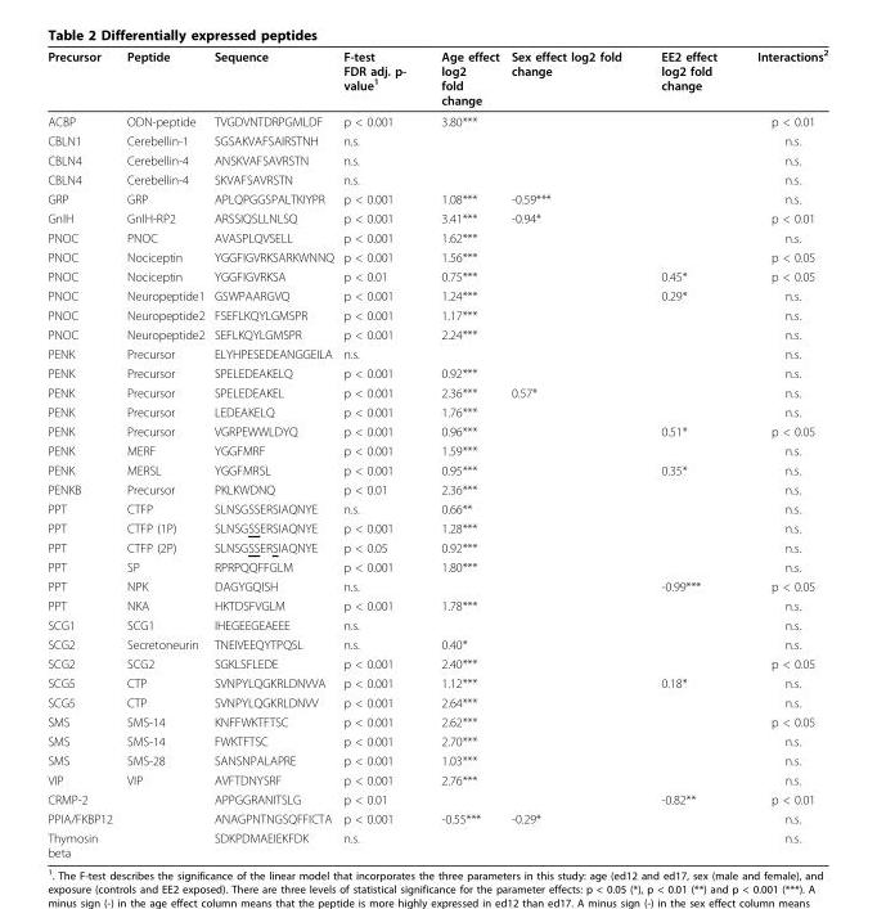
<table><thead><tr><td>Precursor</td><td>Peptide</td><td>Sequence</td><td>F-test FDR adj. p- value<sup>1</sup></td><td>Age effect log2 fold change</td><td>Sex effect log2 fold change</td><td>EE2 effect log2 fold change</td><td>Interactions<sup>2</sup></td></tr></thead><tbody><tr><td>ACBP</td><td>ODN-peptide</td><td>TVGDVNTDRPGMLDF</td><td>p &lt; 0.001</td><td>3.80***</td><td></td><td></td><td>p &lt; 0.01</td></tr><tr><td>CBLN1</td><td>Cerebellin-1</td><td>SGSAKVAFSAIRSTNH</td><td>n.s.</td><td></td><td></td><td></td><td>n.s.</td></tr><tr><td>CBLN4</td><td>Cerebellin-4</td><td>ANSKVAFSAVRSTN</td><td>n.s.</td><td></td><td></td><td></td><td>n.s.</td></tr><tr><td>CBLN4</td><td>Cerebellin-4</td><td>SKVAFSAVRSTN</td><td>n.s.</td><td></td><td></td><td></td><td>n.s.</td></tr><tr><td>GRP</td><td>GRP</td><td>APLQPGGSPALTKIYPR</td><td>p &lt; 0.001</td><td>1.08***</td><td>-0.59***</td><td></td><td>n.s.</td></tr><tr><td>GnIH</td><td>GnIH-RP2</td><td>ARSSIQSLLNLSQ</td><td>p &lt; 0.001</td><td>3.41***</td><td>-0.94*</td><td></td><td>p &lt; 0.01</td></tr><tr><td>PNOC</td><td>PNOC</td><td>AVASPLQVSELL</td><td>p &lt; 0.001</td><td>1.62***</td><td></td><td></td><td>n.s.</td></tr><tr><td>PNOC</td><td>Nociceptin</td><td>YGGFIGVRKSARKWNNQ</td><td>p &lt; 0.001</td><td>1.56***</td><td></td><td></td><td>p &lt; 0.05</td></tr><tr><td>PNOC</td><td>Nociceptin</td><td>YGGFIGVRKSA</td><td>p &lt; 0.01</td><td>0.75***</td><td></td><td>0.45*</td><td>p &lt; 0.05</td></tr><tr><td>PNOC</td><td>Neuropeptide1</td><td>GSWPAARGVQ</td><td>p &lt; 0.001</td><td>1.24***</td><td></td><td>0.29*</td><td>n.s.</td></tr><tr><td>PNOC</td><td>Neuropeptide2</td><td>FSEFLKQYLGMSPR</td><td>p &lt; 0.001</td><td>1.17***</td><td></td><td></td><td>n.s.</td></tr><tr><td>PNOC</td><td>Neuropeptide2</td><td>SEFLKQYLGMSPR</td><td>p &lt; 0.001</td><td>2.24***</td><td></td><td></td><td>n.s.</td></tr><tr><td>PENK</td><td>Precursor</td><td>ELYHPESEDEANGGEILA</td><td>n.s.</td><td></td><td></td><td></td><td>n.s.</td></tr><tr><td>PENK</td><td>Precursor</td><td>SPELEDEAKELQ</td><td>p &lt; 0.001</td><td>0.92***</td><td></td><td></td><td>n.s.</td></tr><tr><td>PENK</td><td>Precursor</td><td>SPELEDEAKEL</td><td>p &lt; 0.001</td><td>2.36***</td><td>0.57*</td><td></td><td>n.s.</td></tr><tr><td>PENK</td><td>Precursor</td><td>LEDEAKELQ</td><td>p &lt; 0.001</td><td>1.76***</td><td></td><td></td><td>n.s.</td></tr><tr><td>PENK</td><td>Precursor</td><td>VGRPEWWLDYQ</td><td>p &lt; 0.001</td><td>0.96***</td><td></td><td>0.51*</td><td>p &lt; 0.05</td></tr><tr><td>PENK</td><td>MERF</td><td>YGGFMRF</td><td>p &lt; 0.001</td><td>1.59***</td><td></td><td></td><td>n.s.</td></tr><tr><td>PENK</td><td>MERSL</td><td>YGGFMRSL</td><td>p &lt; 0.001</td><td>0.95***</td><td></td><td>0.35*</td><td>n.s.</td></tr><tr><td>PENKB</td><td>Precursor</td><td>PKLKWDNQ</td><td>p &lt; 0.01</td><td>2.36***</td><td></td><td></td><td>n.s.</td></tr><tr><td>PPT</td><td>CTFP</td><td>SLNSGSSERSIAQNYE</td><td>n.s.</td><td>0.66**</td><td></td><td></td><td>n.s.</td></tr><tr><td>PPT</td><td>CTFP (1P)</td><td>SLNSGSSERSIAQNYE</td><td>p &lt; 0.001</td><td>1.28***</td><td></td><td></td><td>n.s.</td></tr><tr><td>PPT</td><td>CTFP (2P)</td><td>SLNSGSSERSIAQNYE</td><td>p &lt; 0.05</td><td>0.92***</td><td></td><td></td><td>n.s.</td></tr><tr><td>PPT</td><td>SP</td><td>RPRPQQFFGLM</td><td>p &lt; 0.001</td><td>1.80***</td><td></td><td></td><td>n.s.</td></tr><tr><td>PPT</td><td>NPK</td><td>DAGYGQISH</td><td>n.s.</td><td></td><td></td><td>-0.99***</td><td>p &lt; 0.05</td></tr><tr><td>PPT</td><td>NKA</td><td>HKTDSFVGLM</td><td>p &lt; 0.001</td><td>1.78***</td><td></td><td></td><td>n.s.</td></tr><tr><td>SCG1</td><td>SCG1</td><td>IHEGEEGEAEEE</td><td>n.s.</td><td></td><td></td><td></td><td>n.s.</td></tr><tr><td>SCG2</td><td>Secretoneurin</td><td>TNEIVEEQYTPQSL</td><td>n.s.</td><td>0.40*</td><td></td><td></td><td>n.s.</td></tr><tr><td>SCG2</td><td>SCG2</td><td>SGKLSFLEDE</td><td>p &lt; 0.001</td><td>2.40***</td><td></td><td></td><td>p &lt; 0.05</td></tr><tr><td>SCG5</td><td>CTP</td><td>SVNPYLQGKRLDNVVA</td><td>p &lt; 0.001</td><td>1.12***</td><td></td><td>0.18*</td><td>n.s.</td></tr><tr><td>SCG5</td><td>CTP</td><td>SVNPYLQGKRLDNVV</td><td>p &lt; 0.001</td><td>2.64***</td><td></td><td></td><td>n.s.</td></tr><tr><td>SMS</td><td>SMS-14</td><td>KNFFWKTFTSC</td><td>p &lt; 0.001</td><td>2.62***</td><td></td><td></td><td>p &lt; 0.05</td></tr><tr><td>SMS</td><td>SMS-14</td><td>FWKTFTSC</td><td>p &lt; 0.001</td><td>2.70***</td><td></td><td></td><td>n.s.</td></tr><tr><td>SMS</td><td>SMS-28</td><td>SANSNPALAPRE</td><td>p &lt; 0.001</td><td>1.03***</td><td></td><td></td><td>n.s.</td></tr><tr><td>VIP</td><td>VIP</td><td>AVFTDNYSRF</td><td>p &lt; 0.001</td><td>2.76***</td><td></td><td></td><td>n.s.</td></tr><tr><td>CRMP-2</td><td></td><td>APPGGRANITSLG</td><td>p &lt; 0.01</td><td></td><td></td><td>-0.82**</td><td>p &lt; 0.01</td></tr><tr><td>PPIA/FKBP12</td><td></td><td>ANAGPNTNGSQFFICTA</td><td>p &lt; 0.001</td><td>-0.55***</td><td>-0.29*</td><td></td><td>n.s.</td></tr><tr><td>Thymosin beta</td><td></td><td>SDKPDMAEIEKFDK</td><td>n.s.</td><td></td><td></td><td></td><td>n.s.</td></tr></tbody></table>